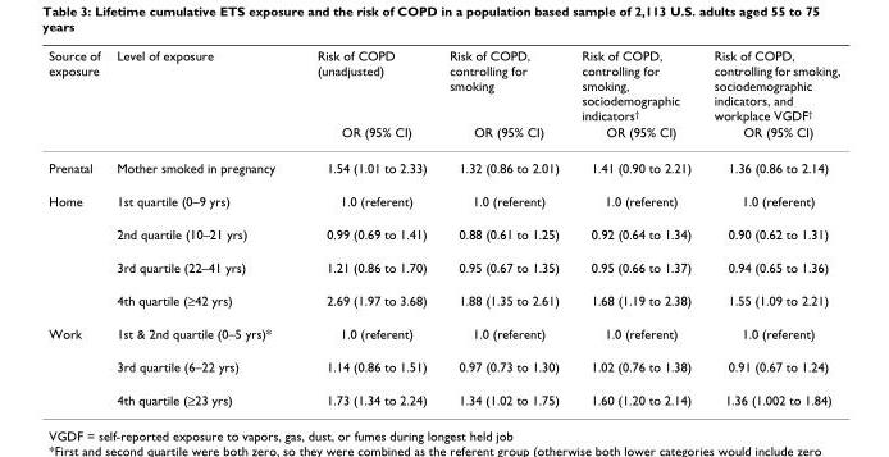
<table><thead><tr><td rowspan="2">Source of exposure</td><td rowspan="2">Level of exposure</td><td rowspan="2">Risk of COPD (unadjusted) OR (95% CI)</td><td rowspan="2">Risk of COPD, controlling for smoking OR (95% CI)</td><td rowspan="2">Risk of COPD, controlling for smoking, sociodemographic indicators<sup>†</sup> OR (95% CI)</td><td rowspan="2">Risk of COPD, controlling for smoking, sociodemographic indicators, and workplace VGDF<sup>†</sup> OR (95% CI)</td></tr><tr></tr></thead><tbody><tr><td>Prenatal</td><td>Mother smoked in pregnancy</td><td>1.54 (1.01 to 2.33)</td><td>1.32 (0.86 to 2.01)</td><td>1.41 (0.90 to 2.21)</td><td>1.36 (0.86 to 2.14)</td></tr><tr><td rowspan="4">Home</td><td>1st quartile (0–9 yrs)</td><td>1.0 (referent)</td><td>1.0 (referent)</td><td>1.0 (referent)</td><td>1.0 (referent)</td></tr><tr><td>2nd quartile (10–21 yrs)</td><td>0.99 (0.69 to 1.41)</td><td>0.88 (0.61 to 1.25)</td><td>0.92 (0.64 to 1.34)</td><td>0.90 (0.62 to 1.31)</td></tr><tr><td>3rd quartile (22–41 yrs)</td><td>1.21 (0.86 to 1.70)</td><td>0.95 (0.67 to 1.35)</td><td>0.95 (0.66 to 1.37)</td><td>0.94 (0.65 to 1.36)</td></tr><tr><td>4th quartile (≥42 yrs)</td><td>2.69 (1.97 to 3.68)</td><td>1.88 (1.35 to 2.61)</td><td>1.68 (1.19 to 2.38)</td><td>1.55 (1.09 to 2.21)</td></tr><tr><td rowspan="3">Work</td><td>1st &amp; 2nd quartile (0–5 yrs)*</td><td>1.0 (referent)</td><td>1.0 (referent)</td><td>1.0 (referent)</td><td>1.0 (referent)</td></tr><tr><td>3rd quartile (6–22 yrs)</td><td>1.14 (0.86 to 1.51)</td><td>0.97 (0.73 to 1.30)</td><td>1.02 (0.76 to 1.38)</td><td>0.91 (0.67 to 1.24)</td></tr><tr><td>4th quartile (≥23 yrs)</td><td>1.73 (1.34 to 2.24)</td><td>1.34 (1.02 to 1.75)</td><td>1.60 (1.20 to 2.14)</td><td>1.36 (1.002 to 1.84)</td></tr></tbody></table>